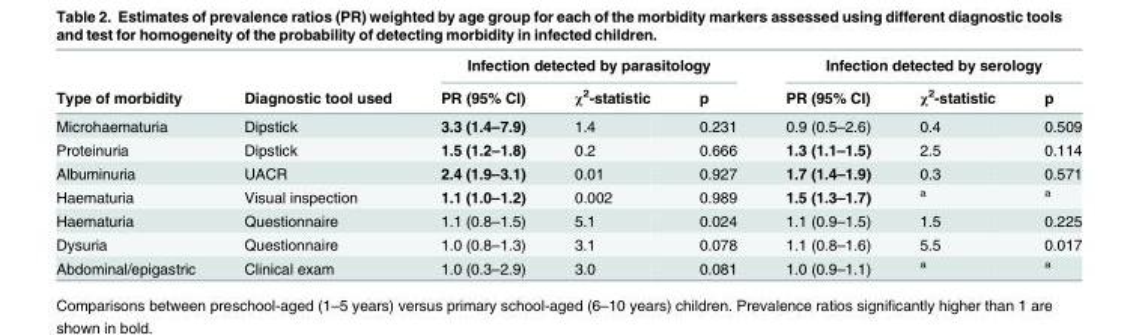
<table><thead><tr><td rowspan="2">Type of morbidity</td><td rowspan="2">Diagnostic tool used</td><td colspan="3">Infection detected by parasitology</td><td colspan="3">Infection detected by serology</td></tr><tr><td>PR (95% CI)</td><td>χ<sup>2</sup>-statistic</td><td>p</td><td>PR (95% CI)</td><td>χ<sup>2</sup>-statistic</td><td>p</td></tr></thead><tbody><tr><td>Microhaematuria</td><td>Dipstick</td><td>3.3 (1.4–7.9)</td><td>1.4</td><td>0.231</td><td>0.9 (0.5–2.6)</td><td>0.4</td><td>0.509</td></tr><tr><td>Proteinuria</td><td>Dipstick</td><td>1.5 (1.2–1.8)</td><td>0.2</td><td>0.666</td><td>1.3 (1.1–1.5)</td><td>2.5</td><td>0.114</td></tr><tr><td>Albuminuria</td><td>UACR</td><td>2.4 (1.9–3.1)</td><td>0.01</td><td>0.927</td><td>1.7 (1.4–1.9)</td><td>0.3</td><td>0.571</td></tr><tr><td>Haematuria</td><td>Visual inspection</td><td>1.1 (1.0–1.2)</td><td>0.002</td><td>0.989</td><td>1.5 (1.3–1.7)</td><td><sup>a</sup></td><td><sup>a</sup></td></tr><tr><td>Haematuria</td><td>Questionnaire</td><td>1.1 (0.8–1.5)</td><td>5.1</td><td>0.024</td><td>1.1 (0.9–1.5)</td><td>1.5</td><td>0.225</td></tr><tr><td>Dysuria</td><td>Questionnaire</td><td>1.0 (0.8–1.3)</td><td>3.1</td><td>0.078</td><td>1.1 (0.8–1.6)</td><td>5.5</td><td>0.017</td></tr><tr><td>Abdominal/epigastric</td><td>Clinical exam</td><td>1.0 (0.3–2.9)</td><td>3.0</td><td>0.081</td><td>1.0 (0.9–1.1)</td><td><sup>a</sup></td><td><sup>a</sup></td></tr></tbody></table>